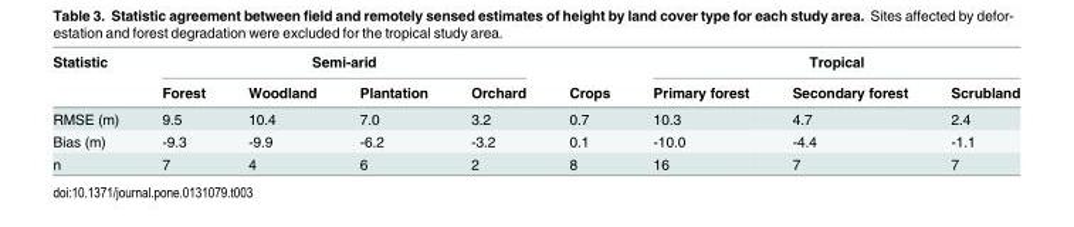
<table><thead><tr><td rowspan="2">Statistic</td><td colspan="4">Semi-arid</td><td rowspan="2">Crops</td><td colspan="3">Tropical</td></tr><tr><td>Forest</td><td>Woodland</td><td>Plantation</td><td>Orchard</td><td>Primary forest</td><td>Secondary forest</td><td>Scrubland</td></tr></thead><tbody><tr><td>RMSE (m)</td><td>9.5</td><td>10.4</td><td>7.0</td><td>3.2</td><td>0.7</td><td>10.3</td><td>4.7</td><td>2.4</td></tr><tr><td>Bias (m)</td><td>-9.3</td><td>-9.9</td><td>-6.2</td><td>-3.2</td><td>0.1</td><td>-10.0</td><td>-4.4</td><td>-1.1</td></tr><tr><td>n</td><td>7</td><td>4</td><td>6</td><td>2</td><td>8</td><td>16</td><td>7</td><td>7</td></tr></tbody></table>